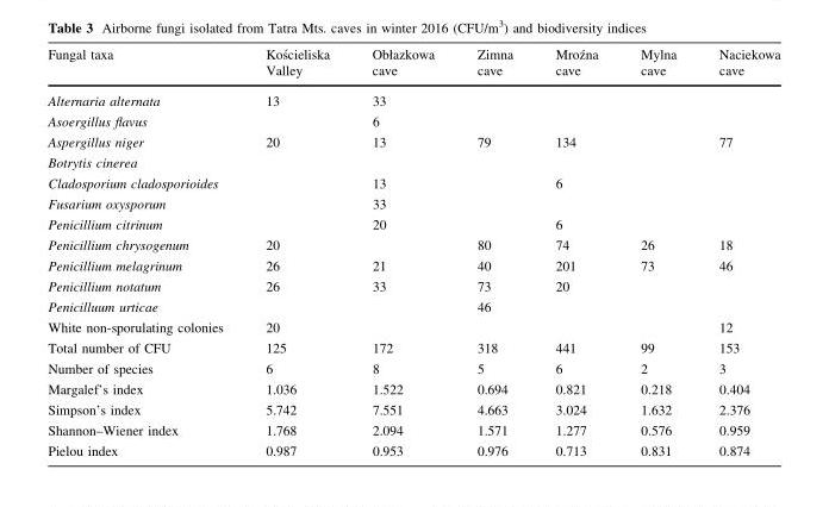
<table><thead><tr><td>Fungal taxa</td><td>Kos´cieliska Valley</td><td>Obłazkowa cave</td><td>Zimna cave</td><td>Mroz´na cave</td><td>Mylna cave</td><td>Naciekowa cave</td></tr></thead><tbody><tr><td>Alternaria alternata</td><td>13</td><td>33</td><td></td><td></td><td></td><td></td></tr><tr><td>Asoergillus flavus</td><td></td><td>6</td><td></td><td></td><td></td><td></td></tr><tr><td>Aspergillus niger</td><td>20</td><td>13</td><td>79</td><td>134</td><td></td><td>77</td></tr><tr><td colspan="7">Botrytis cinerea</td></tr><tr><td>Cladosporium cladosporioides</td><td></td><td>13</td><td></td><td>6</td><td></td><td></td></tr><tr><td>Fusarium oxysporum</td><td></td><td>33</td><td></td><td></td><td></td><td></td></tr><tr><td>Penicillium citrinum</td><td></td><td>20</td><td></td><td>6</td><td></td><td></td></tr><tr><td>Penicillium chrysogenum</td><td>20</td><td></td><td>80</td><td>74</td><td>26</td><td>18</td></tr><tr><td>Penicillium melagrinum</td><td>26</td><td>21</td><td>40</td><td>201</td><td>73</td><td>46</td></tr><tr><td>Penicillium notatum</td><td>26</td><td>33</td><td>73</td><td>20</td><td></td><td></td></tr><tr><td>Penicilluum urticae</td><td></td><td></td><td>46</td><td></td><td></td><td></td></tr><tr><td>White non-sporulating colonies</td><td>20</td><td></td><td></td><td></td><td></td><td>12</td></tr><tr><td>Total number of CFU</td><td>125</td><td>172</td><td>318</td><td>441</td><td>99</td><td>153</td></tr><tr><td>Number of species</td><td>6</td><td>8</td><td>5</td><td>6</td><td>2</td><td>3</td></tr><tr><td>Margalef’s index</td><td>1.036</td><td>1.522</td><td>0.694</td><td>0.821</td><td>0.218</td><td>0.404</td></tr><tr><td>Simpson’s index</td><td>5.742</td><td>7.551</td><td>4.663</td><td>3.024</td><td>1.632</td><td>2.376</td></tr><tr><td>Shannon–Wiener index</td><td>1.768</td><td>2.094</td><td>1.571</td><td>1.277</td><td>0.576</td><td>0.959</td></tr><tr><td>Pielou index</td><td>0.987</td><td>0.953</td><td>0.976</td><td>0.713</td><td>0.831</td><td>0.874</td></tr></tbody></table>